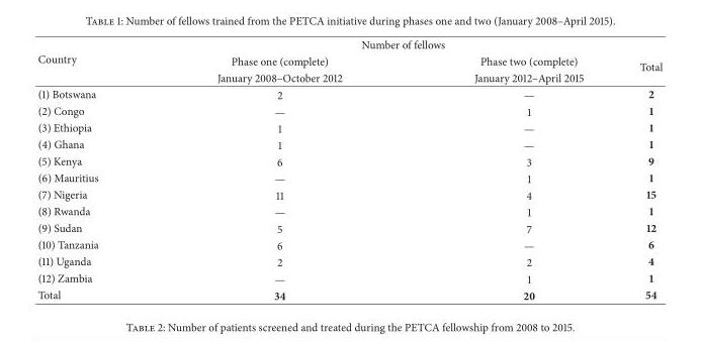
<table><thead><tr><td rowspan="3">Country</td><td colspan="3">Number of fellows</td></tr><tr><td rowspan="2">Phase one (complete) January 2008–October 2012</td><td rowspan="2">Phase two (complete) January 2012–April 2015</td><td rowspan="2">Total</td></tr><tr></tr></thead><tbody><tr><td>(1) Botswana</td><td>2</td><td>—</td><td>2</td></tr><tr><td>(2) Congo</td><td>—</td><td>1</td><td>1</td></tr><tr><td>(3) Ethiopia</td><td>1</td><td>—</td><td>1</td></tr><tr><td>(4) Ghana</td><td>1</td><td>—</td><td>1</td></tr><tr><td>(5) Kenya</td><td>6</td><td>3</td><td>9</td></tr><tr><td>(6) Mauritius</td><td>—</td><td>1</td><td>1</td></tr><tr><td>(7) Nigeria</td><td>11</td><td>4</td><td>15</td></tr><tr><td>(8) Rwanda</td><td>—</td><td>1</td><td>1</td></tr><tr><td>(9) Sudan</td><td>5</td><td>7</td><td>12</td></tr><tr><td>(10) Tanzania</td><td>6</td><td>—</td><td>6</td></tr><tr><td>(11) Uganda</td><td>2</td><td>2</td><td>4</td></tr><tr><td>(12) Zambia</td><td>—</td><td>1</td><td>1</td></tr><tr><td>Total</td><td>34</td><td>20</td><td>54</td></tr></tbody></table>